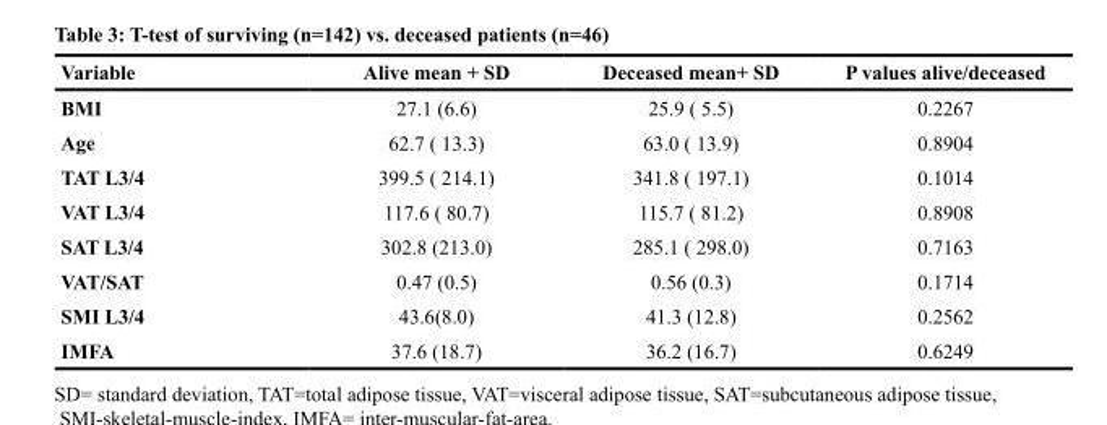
<table><thead><tr><td>Variable</td><td>Alive mean + SD</td><td>Deceased mean+ SD</td><td>P values alive/deceased</td></tr></thead><tbody><tr><td>BMI</td><td>27.1 (6.6)</td><td>25.9 ( 5.5)</td><td>0.2267</td></tr><tr><td>Age</td><td>62.7 ( 13.3)</td><td>63.0 ( 13.9)</td><td>0.8904</td></tr><tr><td>TAT L3/4</td><td>399.5 ( 214.1)</td><td>341.8 ( 197.1)</td><td>0.1014</td></tr><tr><td>VAT L3/4</td><td>117.6 ( 80.7)</td><td>115.7 ( 81.2)</td><td>0.8908</td></tr><tr><td>SAT L3/4</td><td>302.8 (213.0)</td><td>285.1 ( 298.0)</td><td>0.7163</td></tr><tr><td>VAT/SAT</td><td>0.47 (0.5)</td><td>0.56 (0.3)</td><td>0.1714</td></tr><tr><td>SMI L3/4</td><td>43.6(8.0)</td><td>41.3 (12.8)</td><td>0.2562</td></tr><tr><td>IMFA</td><td>37.6 (18.7)</td><td>36.2 (16.7)</td><td>0.6249</td></tr></tbody></table>